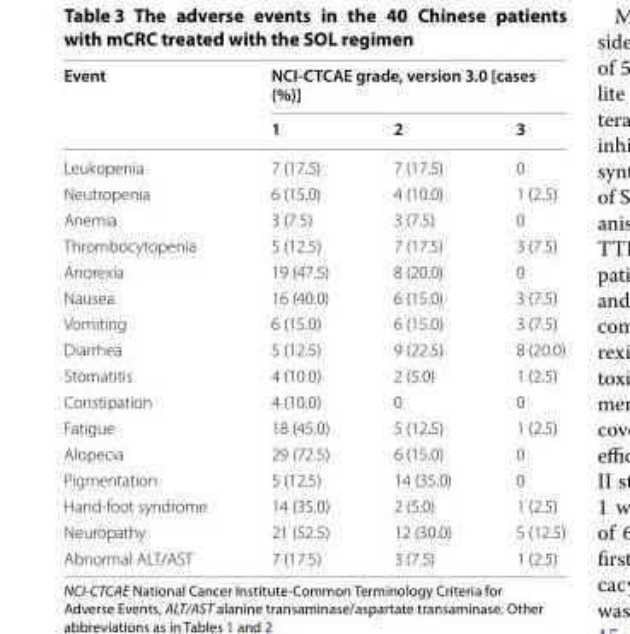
<table><thead><tr><td rowspan="2">Event</td><td colspan="3">NCI-CTCAE grade, version 3.0 [cases (%)]</td></tr><tr><td>1</td><td>2</td><td>3</td></tr></thead><tbody><tr><td>Leukopenia</td><td>7 (17.5)</td><td>7 (17.5)</td><td>0</td></tr><tr><td>Neutropenia</td><td>6 (15.0)</td><td>4 (10.0)</td><td>1 (2.5)</td></tr><tr><td>Anemia</td><td>3 (7.5)</td><td>3 (7.5)</td><td>0</td></tr><tr><td>Thrombocytopenia</td><td>5 (12.5)</td><td>7 (17.5)</td><td>3 (7.5)</td></tr><tr><td>Anorexia</td><td>19 (47.5)</td><td>8 (20.0)</td><td>0</td></tr><tr><td>Nausea</td><td>16 (40.0)</td><td>6 (15.0)</td><td>3 (7.5)</td></tr><tr><td>Vomiting</td><td>6 (15.0)</td><td>6 (15.0)</td><td>3 (7.5)</td></tr><tr><td>Diarrhea</td><td>5 (12.5)</td><td>9 (22.5)</td><td>8 (20.0)</td></tr><tr><td>Stomatitis</td><td>4 (10.0)</td><td>2 (5.0)</td><td>1 (2.5)</td></tr><tr><td>Constipation</td><td>4 (10.0)</td><td>0</td><td>0</td></tr><tr><td>Fatigue</td><td>18 (45.0)</td><td>5 (12.5)</td><td>1 (2.5)</td></tr><tr><td>Alopecia</td><td>29 (72.5)</td><td>6 (15.0)</td><td>0</td></tr><tr><td>Pigmentation</td><td>5 (12.5)</td><td>14 (35.0)</td><td>0</td></tr><tr><td>Hand‑foot syndrome</td><td>14 (35.0)</td><td>2 (5.0)</td><td>1 (2.5)</td></tr><tr><td>Neuropathy</td><td>21 (52.5)</td><td>12 (30.0)</td><td>5 (12.5)</td></tr><tr><td>Abnormal ALT/AST</td><td>7 (17.5)</td><td>3 (7.5)</td><td>1 (2.5)</td></tr></tbody></table>